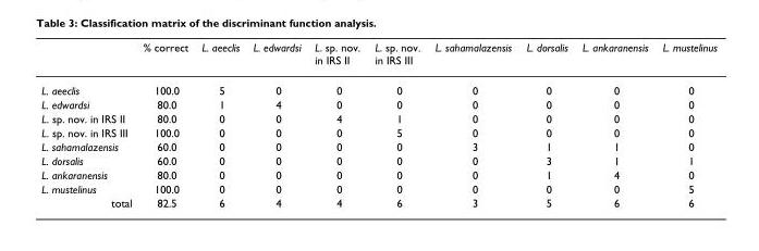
<table><thead><tr><td></td><td>% correct</td><td>L. aeeclis</td><td>L. edwardsi</td><td>L. sp. nov. in IRS II</td><td>L. sp. nov. in IRS III</td><td>L. sahamalazensis</td><td>L. dorsalis</td><td>L. ankaranensis</td><td>L. mustelinus</td></tr></thead><tbody><tr><td>L. aeeclis</td><td>100.0</td><td>5</td><td>0</td><td>0</td><td>0</td><td>0</td><td>0</td><td>0</td><td>0</td></tr><tr><td>L. edwardsi</td><td>80.0</td><td>1</td><td>4</td><td>0</td><td>0</td><td>0</td><td>0</td><td>0</td><td>0</td></tr><tr><td>L. sp. nov. in IRS II</td><td>80.0</td><td>0</td><td>0</td><td>4</td><td>1</td><td>0</td><td>0</td><td>0</td><td>0</td></tr><tr><td>L. sp. nov. in IRS III</td><td>100.0</td><td>0</td><td>0</td><td>0</td><td>5</td><td>0</td><td>0</td><td>0</td><td>0</td></tr><tr><td>L. sahamalazensis</td><td>60.0</td><td>0</td><td>0</td><td>0</td><td>0</td><td>3</td><td>1</td><td>1</td><td>0</td></tr><tr><td>L. dorsalis</td><td>60.0</td><td>0</td><td>0</td><td>0</td><td>0</td><td>0</td><td>3</td><td>1</td><td>1</td></tr><tr><td>L. ankaranensis</td><td>80.0</td><td>0</td><td>0</td><td>0</td><td>0</td><td>0</td><td>1</td><td>4</td><td>0</td></tr><tr><td>L. mustelinus</td><td>100.0</td><td>0</td><td>0</td><td>0</td><td>0</td><td>0</td><td>0</td><td>0</td><td>5</td></tr><tr><td>total</td><td>82.5</td><td>6</td><td>4</td><td>4</td><td>6</td><td>3</td><td>5</td><td>6</td><td>6</td></tr></tbody></table>